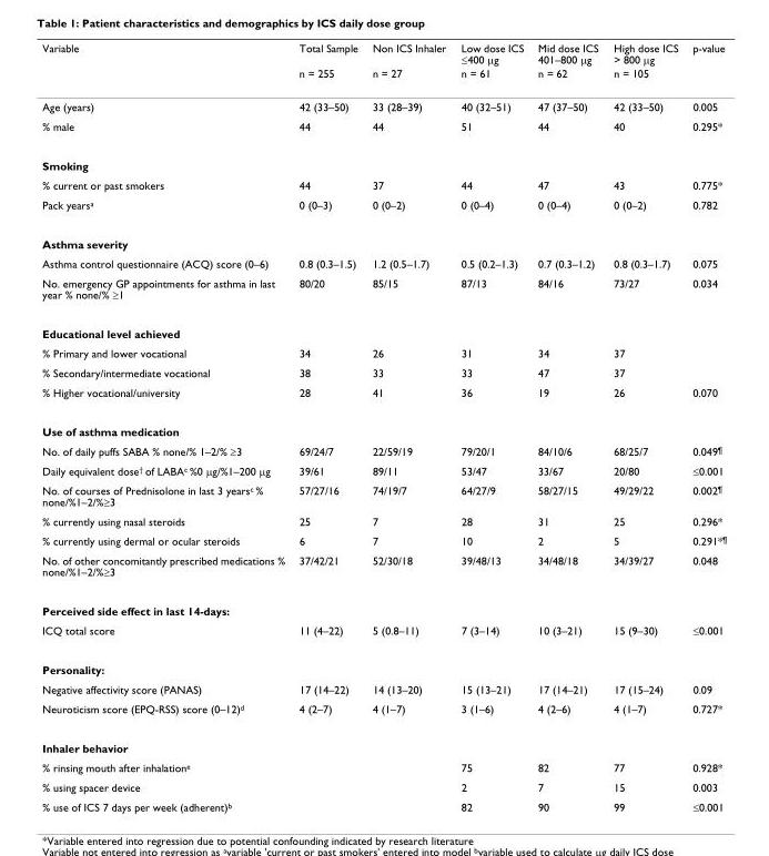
<table><thead><tr><td rowspan="2">Variable</td><td rowspan="2">Total Sample n = 255</td><td rowspan="2">Non ICS Inhaler n = 27</td><td rowspan="2">Low dose ICS ≤400 µg n = 61</td><td rowspan="2">Mid dose ICS 401–800 µg n = 62</td><td rowspan="2">High dose ICS &gt; 800 µg n = 105</td><td rowspan="2">p-value</td></tr><tr></tr></thead><tbody><tr><td>Age (years)</td><td>42 (33–50)</td><td>33 (28–39)</td><td>40 (32–51)</td><td>47 (37–50)</td><td>42 (33–50)</td><td>0.005</td></tr><tr><td>% male</td><td>44</td><td>44</td><td>51</td><td>44</td><td>40</td><td>0.295*</td></tr><tr><td colspan="7">Smoking</td></tr><tr><td>% current or past smokers</td><td>44</td><td>37</td><td>44</td><td>47</td><td>43</td><td>0.775*</td></tr><tr><td>Pack years<sup>a</sup></td><td>0 (0–3)</td><td>0 (0–2)</td><td>0 (0–4)</td><td>0 (0–4)</td><td>0 (0–2)</td><td>0.782</td></tr><tr><td colspan="7">Asthma severity</td></tr><tr><td>Asthma control questionnaire (ACQ) score (0–6)</td><td>0.8 (0.3–1.5)</td><td>1.2 (0.5–1.7)</td><td>0.5 (0.2–1.3)</td><td>0.7 (0.3–1.2)</td><td>0.8 (0.3–1.7)</td><td>0.075</td></tr><tr><td>No. emergency GP appointments for asthma in last year % none/% ≥1</td><td>80/20</td><td>85/15</td><td>87/13</td><td>84/16</td><td>73/27</td><td>0.034</td></tr><tr><td colspan="7">Educational level achieved</td></tr><tr><td>% Primary and lower vocational</td><td>34</td><td>26</td><td>31</td><td>34</td><td>37</td><td></td></tr><tr><td>% Secondary/intermediate vocational</td><td>38</td><td>33</td><td>33</td><td>47</td><td>37</td><td></td></tr><tr><td>% Higher vocational/university</td><td>28</td><td>41</td><td>36</td><td>19</td><td>26</td><td>0.070</td></tr><tr><td colspan="7">Use of asthma medication</td></tr><tr><td>No. of daily puffs SABA % none/% 1–2/% ≥3</td><td>69/24/7</td><td>22/59/19</td><td>79/20/1</td><td>84/10/6</td><td>68/25/7</td><td>0.049<sup>¶</sup></td></tr><tr><td>Daily equivalent dose<sup>†</sup> of LABA<sup>c</sup> %0 µg/%1–200 µg</td><td>39/61</td><td>89/11</td><td>53/47</td><td>33/67</td><td>20/80</td><td>≤0.001</td></tr><tr><td>No. of courses of Prednisolone in last 3 years<sup>c</sup> % none/%1–2/%≥3</td><td>57/27/16</td><td>74/19/7</td><td>64/27/9</td><td>58/27/15</td><td>49/29/22</td><td>0.002<sup>¶</sup></td></tr><tr><td>% currently using nasal steroids</td><td>25</td><td>7</td><td>28</td><td>31</td><td>25</td><td>0.296*</td></tr><tr><td>% currently using dermal or ocular steroids</td><td>6</td><td>7</td><td>10</td><td>2</td><td>5</td><td>0.291*<sup>¶</sup></td></tr><tr><td>No. of other concomitantly prescribed medications % none/%1–2/%≥3</td><td>37/42/21</td><td>52/30/18</td><td>39/48/13</td><td>34/48/18</td><td>34/39/27</td><td>0.048</td></tr><tr><td colspan="7">Perceived side effect in last 14-days:</td></tr><tr><td>ICQ total score</td><td>11 (4–22)</td><td>5 (0.8–11)</td><td>7 (3–14)</td><td>10 (3–21)</td><td>15 (9–30)</td><td>≤0.001</td></tr><tr><td colspan="7">Personality:</td></tr><tr><td>Negative affectivity score (PANAS)</td><td>17 (14–22)</td><td>14 (13–20)</td><td>15 (13–21)</td><td>17 (14–21)</td><td>17 (15–24)</td><td>0.09</td></tr><tr><td>Neuroticism score (EPQ-RSS) score (0–12)<sup>d</sup></td><td>4 (2–7)</td><td>4 (1–7)</td><td>3 (1–6)</td><td>4 (2–6)</td><td>4 (1–7)</td><td>0.727*</td></tr><tr><td colspan="7">Inhaler behavior</td></tr><tr><td>% rinsing mouth after inhalation<sup>e</sup></td><td></td><td></td><td>75</td><td>82</td><td>77</td><td>0.928*</td></tr><tr><td>% using spacer device</td><td></td><td></td><td>2</td><td>7</td><td>15</td><td>0.003</td></tr><tr><td>% use of ICS 7 days per week (adherent)<sup>b</sup></td><td></td><td></td><td>82</td><td>90</td><td>99</td><td>≤0.001</td></tr></tbody></table>